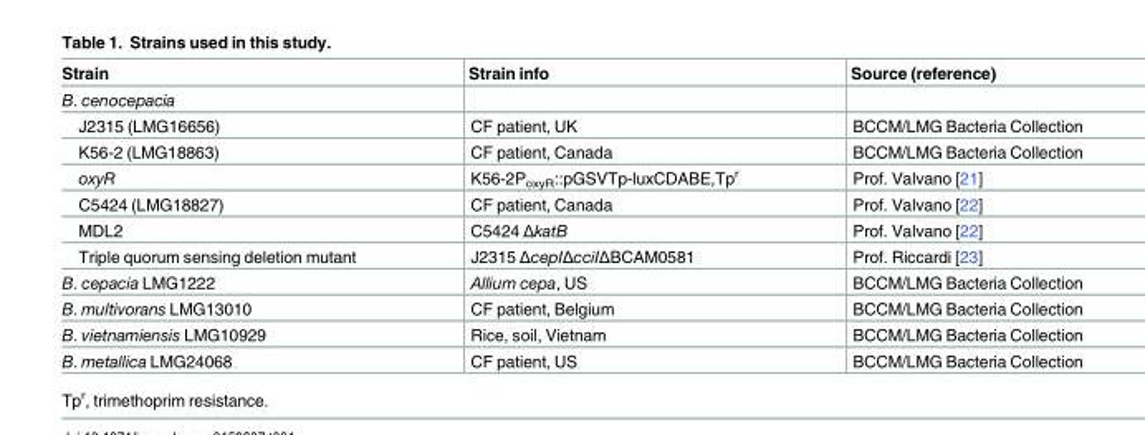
<table><thead><tr><td>Strain</td><td>Strain info</td><td>Source (reference)</td></tr></thead><tbody><tr><td colspan="3">B. cenocepacia</td></tr><tr><td>J2315 (LMG16656)</td><td>CF patient, UK</td><td>BCCM/LMG Bacteria Collection</td></tr><tr><td>K56-2 (LMG18863)</td><td>CF patient, Canada</td><td>BCCM/LMG Bacteria Collection</td></tr><tr><td>oxyR</td><td>K56-2P<sub>oxyR</sub>::pGSVTp-luxCDABE,Tp<sup>r</sup></td><td>Prof. Valvano [21]</td></tr><tr><td>C5424 (LMG18827)</td><td>CF patient, Canada</td><td>Prof. Valvano [22]</td></tr><tr><td>MDL2</td><td>C5424 ΔkatB</td><td>Prof. Valvano [22]</td></tr><tr><td>Triple quorum sensing deletion mutant</td><td>J2315 ΔcepIΔcciIΔBCAM0581</td><td>Prof. Riccardi [23]</td></tr><tr><td>B. cepacia LMG1222</td><td>Allium cepa, US</td><td>BCCM/LMG Bacteria Collection</td></tr><tr><td>B. multivorans LMG13010</td><td>CF patient, Belgium</td><td>BCCM/LMG Bacteria Collection</td></tr><tr><td>B. vietnamiensis LMG10929</td><td>Rice, soil, Vietnam</td><td>BCCM/LMG Bacteria Collection</td></tr><tr><td>B. metallica LMG24068</td><td>CF patient, US</td><td>BCCM/LMG Bacteria Collection</td></tr></tbody></table>